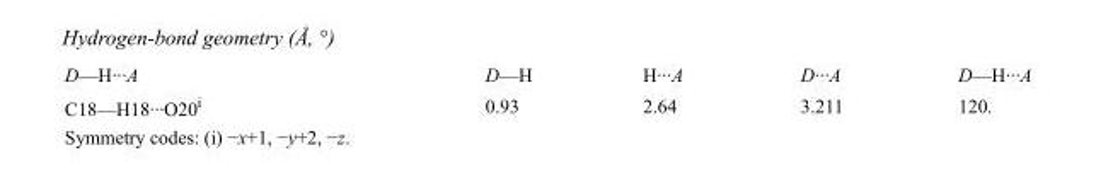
<table><tbody><tr><td>D—H···A</td><td>D—H</td><td>H···A</td><td>D···A</td><td>D—H···A</td></tr><tr><td>C18—H18···O20<sup>i</sup></td><td>0.93</td><td>2.64</td><td>3.211</td><td>120.</td></tr></tbody></table>